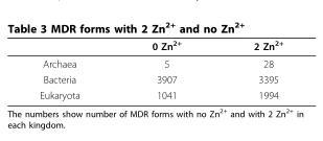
<table><thead><tr><td></td><td>0 Zn<sup>2+</sup></td><td>2 Zn<sup>2+</sup></td></tr></thead><tbody><tr><td>Archaea</td><td>5</td><td>28</td></tr><tr><td>Bacteria</td><td>3907</td><td>3395</td></tr><tr><td>Eukaryota</td><td>1041</td><td>1994</td></tr></tbody></table>